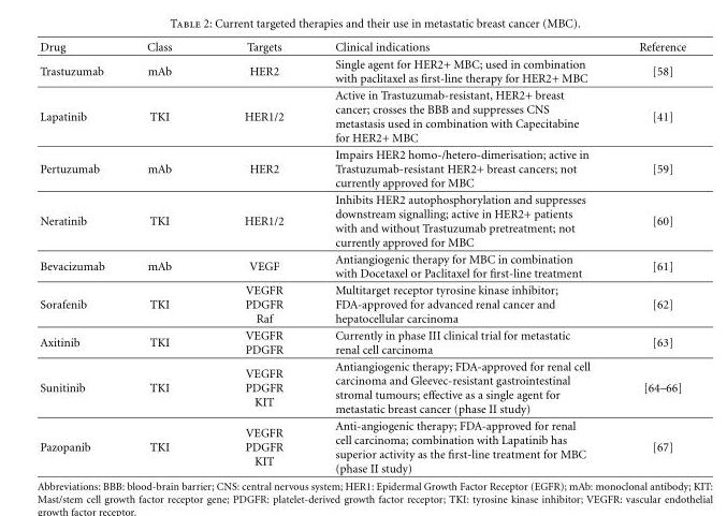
<table><thead><tr><td>Drug</td><td>Class</td><td>Targets</td><td>Clinical indications</td><td>Reference</td></tr></thead><tbody><tr><td>Trastuzumab</td><td>mAb</td><td>HER2</td><td>Single agent for HER2+ MBC; used in combination with paclitaxel as first-line therapy for HER2+ MBC</td><td>[58]</td></tr><tr><td>Lapatinib</td><td>TKI</td><td>HER1/2</td><td>Active in Trastuzumab-resistant, HER2+ breast cancer; crosses the BBB and suppresses CNS metastasis used in combination with Capecitabine for HER2+ MBC</td><td>[41]</td></tr><tr><td>Pertuzumab</td><td>mAb</td><td>HER2</td><td>Impairs HER2 homo-/hetero-dimerisation; active in Trastuzumab-resistant HER2+ breast cancers; not currently approved for MBC</td><td>[59]</td></tr><tr><td>Neratinib</td><td>TKI</td><td>HER1/2</td><td>Inhibits HER2 autophosphorylation and suppresses downstream signalling; active in HER2+ patients with and without Trastuzumab pretreatment; not currently approved for MBC</td><td>[60]</td></tr><tr><td>Bevacizumab</td><td>mAb</td><td>VEGF</td><td>Antiangiogenic therapy for MBC in combination with Docetaxel or Paclitaxel for first-line treatment</td><td>[61]</td></tr><tr><td>Sorafenib</td><td>TKI</td><td>VEGFR PDGFR Raf</td><td>Multitarget receptor tyrosine kinase inhibitor; FDA-approved for advanced renal cancer and hepatocellular carcinoma</td><td>[62]</td></tr><tr><td>Axitinib</td><td>TKI</td><td>VEGFR PDGFR</td><td>Currently in phase III clinical trial for metastatic renal cell carcinoma</td><td>[63]</td></tr><tr><td>Sunitinib</td><td>TKI</td><td>VEGFR PDGFR KIT</td><td>Antiangiogenic therapy; FDA-approved for renal cell carcinoma and Gleevec-resistant gastrointestinal stromal tumours; effective as a single agent for metastatic breast cancer (phase II study)</td><td>[64–66]</td></tr><tr><td>Pazopanib</td><td>TKI</td><td>VEGFR PDGFR KIT</td><td>Anti-angiogenic therapy; FDA-approved for renal cell carcinoma; combination with Lapatinib has superior activity as the first-line treatment for MBC (phase II study)</td><td>[67]</td></tr></tbody></table>